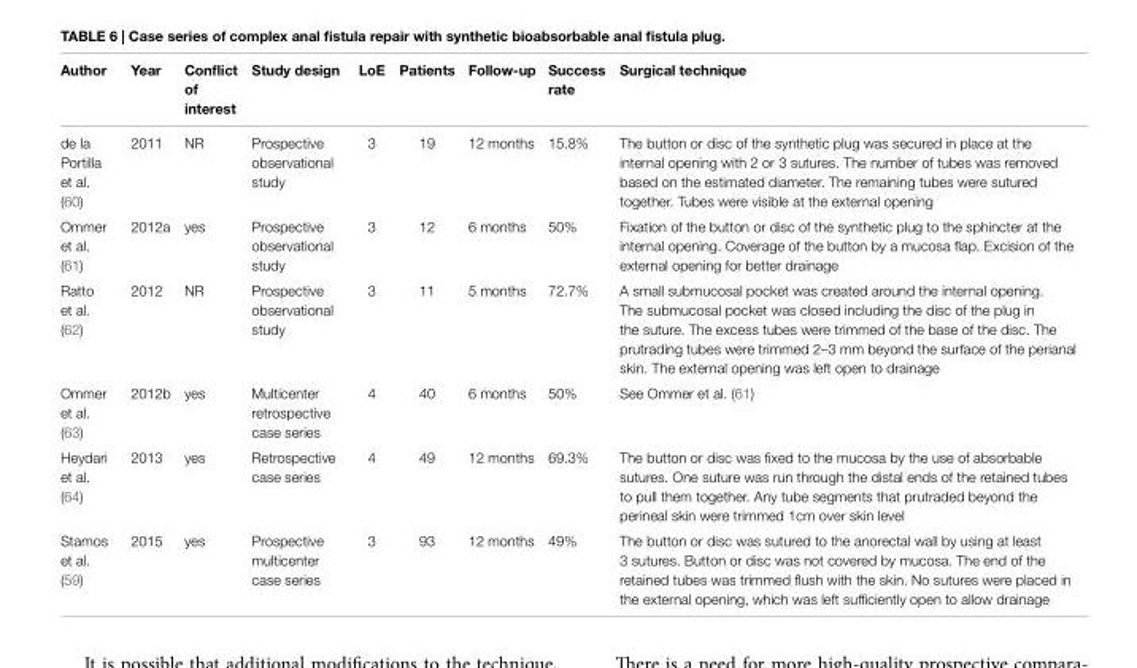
<table><thead><tr><td>Author</td><td>Year</td><td>Conflict of interest</td><td>Study design</td><td>Loe</td><td>Patients</td><td>Follow-up</td><td>Success rate</td><td>Surgical technique</td></tr></thead><tbody><tr><td>de la Portilla et al. (60)</td><td>2011</td><td>NR</td><td>Prospective observational study</td><td>3</td><td>19</td><td>12 months</td><td>15.8%</td><td>The button or disc of the synthetic plug was secured in place at the internal opening with 2 or 3 sutures. The number of tubes was removed based on the estimated diameter. The remaining tubes were sutured together. Tubes were visible at the external opening</td></tr><tr><td>Ommer et al. (61)</td><td>2012a</td><td>yes</td><td>Prospective observational study</td><td>3</td><td>12</td><td>6 months</td><td>50%</td><td>Fixation of the button or disc of the synthetic plug to the sphincter at the internal opening. Coverage of the button by a mucosa flap. Excision of the external opening for better drainage</td></tr><tr><td>Ratto et al. (62)</td><td>2012</td><td>NR</td><td>Prospective observational study</td><td>3</td><td>11</td><td>5 months</td><td>72.7%</td><td>A small submucosal pocket was created around the internal opening. The submucosal pocket was closed including the disc of the plug in the suture. The excess tubes were trimmed of the base of the disc. The prutrading tubes were trimmed 2–3 mm beyond the surface of the perianal skin. The external opening was left open to drainage</td></tr><tr><td>Ommer et al. (63)</td><td>2012b</td><td>yes</td><td>Multicenter retrospective case series</td><td>4</td><td>40</td><td>6 months</td><td>50%</td><td>See Ommer et al. (61)</td></tr><tr><td>Heydari et al. (64)</td><td>2013</td><td>yes</td><td>Retrospective case series</td><td>4</td><td>49</td><td>12 months</td><td>69.3%</td><td>The button or disc was fixed to the mucosa by the use of absorbable sutures. One suture was run through the distal ends of the retained tubes to pull them together. Any tube segments that prutraded beyond the perineal skin were trimmed 1cm over skin level</td></tr><tr><td>Stamos et al. (59)</td><td>2015</td><td>yes</td><td>Prospective multicenter case series</td><td>3</td><td>93</td><td>12 months</td><td>49%</td><td>The button or disc was sutured to the anorectal wall by using at least 3 sutures. Button or disc was not covered by mucosa. The end of the retained tubes was trimmed flush with the skin. No sutures were placed in the external opening, which was left sufficiently open to allow drainage</td></tr></tbody></table>